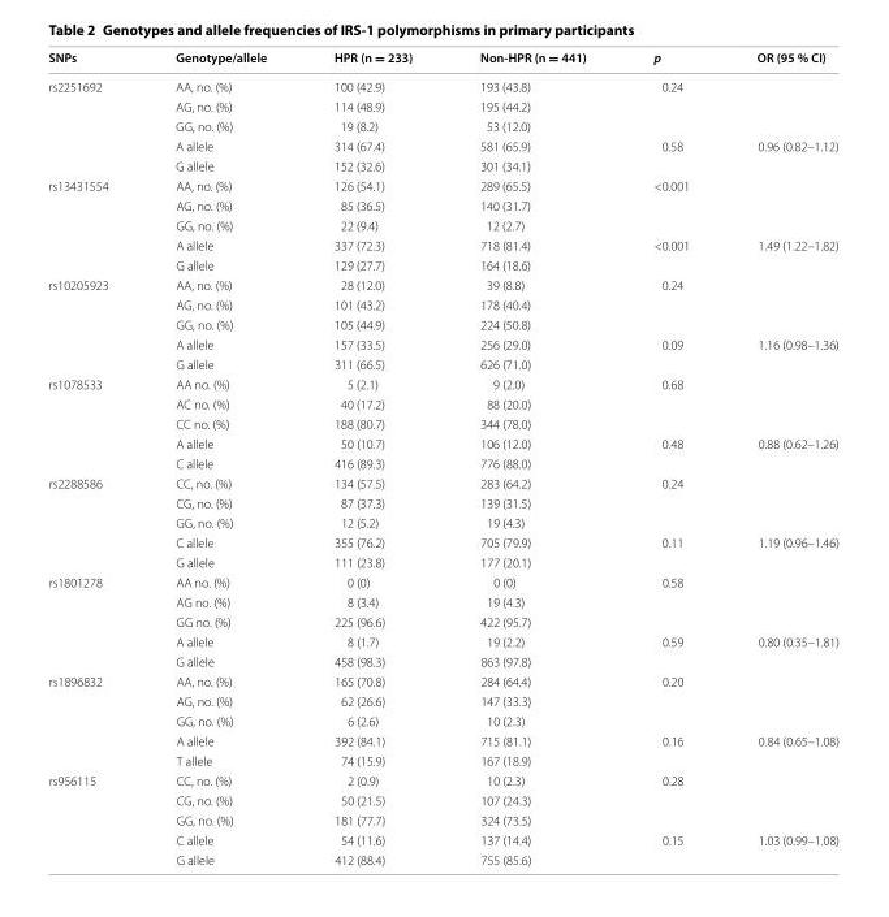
<table><thead><tr><td>SNPs</td><td>Genotype/allele</td><td>HPR (n = 233)</td><td>Non-HPR (n = 441)</td><td>p</td><td>OR (95 % CI)</td></tr></thead><tbody><tr><td rowspan="5">rs2251692</td><td>AA, no. (%)</td><td>100 (42.9)</td><td>193 (43.8)</td><td>0.24</td><td></td></tr><tr><td>AG, no. (%)</td><td>114 (48.9)</td><td>195 (44.2)</td><td></td><td></td></tr><tr><td>GG, no. (%)</td><td>19 (8.2)</td><td>53 (12.0)</td><td></td><td></td></tr><tr><td>A allele</td><td>314 (67.4)</td><td>581 (65.9)</td><td>0.58</td><td>0.96 (0.82–1.12)</td></tr><tr><td>G allele</td><td>152 (32.6)</td><td>301 (34.1)</td><td></td><td></td></tr><tr><td rowspan="5">rs13431554</td><td>AA, no. (%)</td><td>126 (54.1)</td><td>289 (65.5)</td><td>&lt;0.001</td><td></td></tr><tr><td>AG, no. (%)</td><td>85 (36.5)</td><td>140 (31.7)</td><td></td><td></td></tr><tr><td>GG, no. (%)</td><td>22 (9.4)</td><td>12 (2.7)</td><td></td><td></td></tr><tr><td>A allele</td><td>337 (72.3)</td><td>718 (81.4)</td><td>&lt;0.001</td><td>1.49 (1.22–1.82)</td></tr><tr><td>G allele</td><td>129 (27.7)</td><td>164 (18.6)</td><td></td><td></td></tr><tr><td rowspan="5">rs10205923</td><td>AA, no. (%)</td><td>28 (12.0)</td><td>39 (8.8)</td><td>0.24</td><td></td></tr><tr><td>AG, no. (%)</td><td>101 (43.2)</td><td>178 (40.4)</td><td></td><td></td></tr><tr><td>GG, no. (%)</td><td>105 (44.9)</td><td>224 (50.8)</td><td></td><td></td></tr><tr><td>A allele</td><td>157 (33.5)</td><td>256 (29.0)</td><td>0.09</td><td>1.16 (0.98–1.36)</td></tr><tr><td>G allele</td><td>311 (66.5)</td><td>626 (71.0)</td><td></td><td></td></tr><tr><td rowspan="5">rs1078533</td><td>AA no. (%)</td><td>5 (2.1)</td><td>9 (2.0)</td><td>0.68</td><td></td></tr><tr><td>AC no. (%)</td><td>40 (17.2)</td><td>88 (20.0)</td><td></td><td></td></tr><tr><td>CC no. (%)</td><td>188 (80.7)</td><td>344 (78.0)</td><td></td><td></td></tr><tr><td>A allele</td><td>50 (10.7)</td><td>106 (12.0)</td><td>0.48</td><td>0.88 (0.62–1.26)</td></tr><tr><td>C allele</td><td>416 (89.3)</td><td>776 (88.0)</td><td></td><td></td></tr><tr><td rowspan="5">rs2288586</td><td>CC, no. (%)</td><td>134 (57.5)</td><td>283 (64.2)</td><td>0.24</td><td></td></tr><tr><td>CG, no. (%)</td><td>87 (37.3)</td><td>139 (31.5)</td><td></td><td></td></tr><tr><td>GG, no. (%)</td><td>12 (5.2)</td><td>19 (4.3)</td><td></td><td></td></tr><tr><td>C allele</td><td>355 (76.2)</td><td>705 (79.9)</td><td>0.11</td><td>1.19 (0.96–1.46)</td></tr><tr><td>G allele</td><td>111 (23.8)</td><td>177 (20.1)</td><td></td><td></td></tr><tr><td rowspan="5">rs1801278</td><td>AA no. (%)</td><td>0 (0)</td><td>0 (0)</td><td>0.58</td><td></td></tr><tr><td>AG no. (%)</td><td>8 (3.4)</td><td>19 (4.3)</td><td></td><td></td></tr><tr><td>GG no. (%)</td><td>225 (96.6)</td><td>422 (95.7)</td><td></td><td></td></tr><tr><td>A allele</td><td>8 (1.7)</td><td>19 (2.2)</td><td>0.59</td><td>0.80 (0.35–1.81)</td></tr><tr><td>G allele</td><td>458 (98.3)</td><td>863 (97.8)</td><td></td><td></td></tr><tr><td rowspan="5">rs1896832</td><td>AA, no. (%)</td><td>165 (70.8)</td><td>284 (64.4)</td><td>0.20</td><td></td></tr><tr><td>AG, no. (%)</td><td>62 (26.6)</td><td>147 (33.3)</td><td></td><td></td></tr><tr><td>GG, no. (%)</td><td>6 (2.6)</td><td>10 (2.3)</td><td></td><td></td></tr><tr><td>A allele</td><td>392 (84.1)</td><td>715 (81.1)</td><td>0.16</td><td>0.84 (0.65–1.08)</td></tr><tr><td>T allele</td><td>74 (15.9)</td><td>167 (18.9)</td><td></td><td></td></tr><tr><td rowspan="5">rs956115</td><td>CC, no. (%)</td><td>2 (0.9)</td><td>10 (2.3)</td><td>0.28</td><td></td></tr><tr><td>CG, no. (%)</td><td>50 (21.5)</td><td>107 (24.3)</td><td></td><td></td></tr><tr><td>GG, no. (%)</td><td>181 (77.7)</td><td>324 (73.5)</td><td></td><td></td></tr><tr><td>C allele</td><td>54 (11.6)</td><td>137 (14.4)</td><td>0.15</td><td>1.03 (0.99–1.08)</td></tr><tr><td>G allele</td><td>412 (88.4)</td><td>755 (85.6)</td><td></td><td></td></tr></tbody></table>